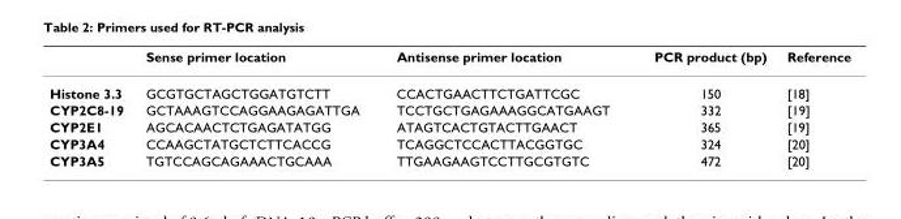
<table><thead><tr><td></td><td>Sense primer location</td><td>Antisense primer location</td><td>PCR product (bp)</td><td>Reference</td></tr></thead><tbody><tr><td>Histone 3.3</td><td>GCGTGCTAGCTGGATGTCTT</td><td>CCACTGAACTTCTGATTCGC</td><td>150</td><td>[18]</td></tr><tr><td>CYP2C8-19</td><td>GCTAAAGTCCAGGAAGAGATTGA</td><td>TCCTGCTGAGAAAGGCATGAAGT</td><td>332</td><td>[19]</td></tr><tr><td>CYP2E1</td><td>AGCACAACTCTGAGATATGG</td><td>ATAGTCACTGTACTTGAACT</td><td>365</td><td>[19]</td></tr><tr><td>CYP3A4</td><td>CCAAGCTATGCTCTTCACCG</td><td>TCAGGCTCCACTTACGGTGC</td><td>324</td><td>[20]</td></tr><tr><td>CYP3A5</td><td>TGTCCAGCAGAAACTGCAAA</td><td>TTGAAGAAGTCCTTGCGTGTC</td><td>472</td><td>[20]</td></tr></tbody></table>